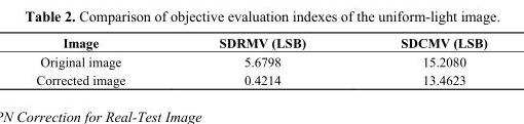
<table><thead><tr><td>Image</td><td>SDRMV (LSB)</td><td>SDCMV (LSB)</td></tr></thead><tbody><tr><td>Original image</td><td>5.6798</td><td>15.2080</td></tr><tr><td>Corrected image</td><td>0.4214</td><td>13.4623</td></tr></tbody></table>